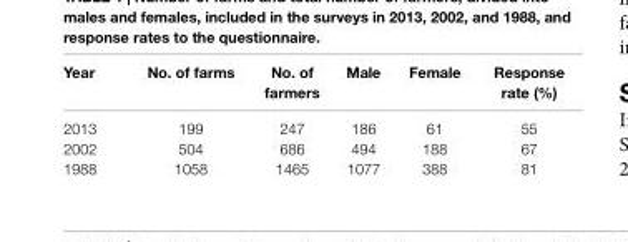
<table><thead><tr><td>Year</td><td>no. of farms</td><td>no. of farmers</td><td>Male</td><td>Female</td><td>response rate (%)</td></tr></thead><tbody><tr><td>2013</td><td>199</td><td>247</td><td>186</td><td>61</td><td>55</td></tr><tr><td>2002</td><td>504</td><td>686</td><td>494</td><td>188</td><td>67</td></tr><tr><td>1988</td><td>1058</td><td>1465</td><td>1077</td><td>388</td><td>81</td></tr></tbody></table>